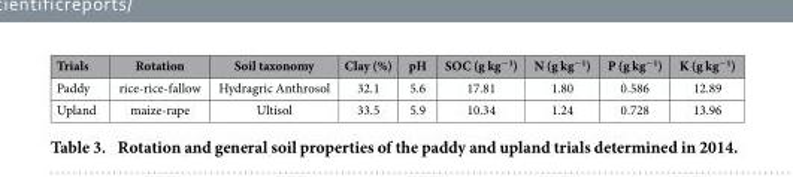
<table><thead><tr><td>Trials</td><td>Rotation</td><td>Soil taxonomy</td><td>Clay (%)</td><td>pH</td><td>SOC (g kg<sup>−1</sup>)</td><td>N (g kg<sup>−1</sup>)</td><td>P (g kg<sup>−1</sup>)</td><td>K (g kg<sup>−1</sup>)</td></tr></thead><tbody><tr><td>Paddy</td><td>rice-rice-fallow</td><td>Hydragric Anthrosol</td><td>32.1</td><td>5.6</td><td>17.81</td><td>1.80</td><td>0.586</td><td>12.89</td></tr><tr><td>Upland</td><td>maize-rape</td><td>Ultisol</td><td>33.5</td><td>5.9</td><td>10.34</td><td>1.24</td><td>0.728</td><td>13.96</td></tr></tbody></table>